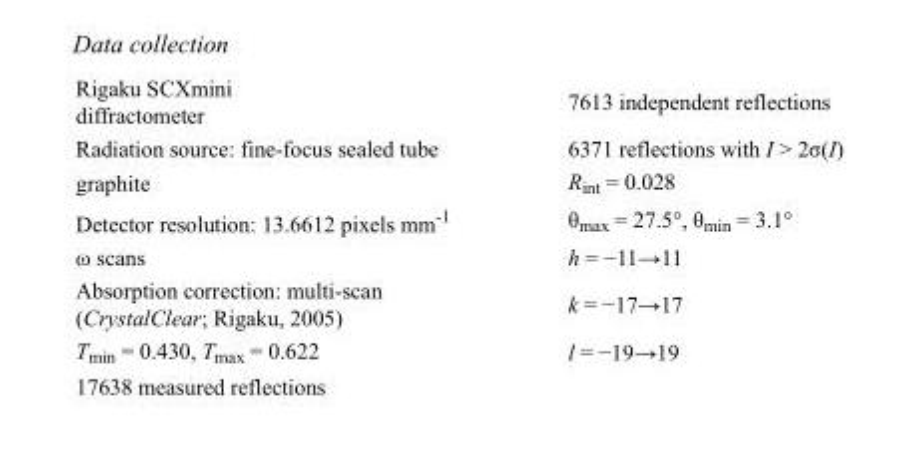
<table><tbody><tr><td>Rigaku SCXmini diffractometer</td><td>7613 independent reflections</td></tr><tr><td>Radiation source: fine-focus sealed tube</td><td>6371 reflections with I &gt; 2σ(I)</td></tr><tr><td>graphite</td><td>R<sub>int</sub> = 0.028</td></tr><tr><td>Detector resolution: 13.6612 pixels mm<sup>-1</sup></td><td>θ<sub>max</sub> = 27.5°, θ<sub>min</sub> = 3.1°</td></tr><tr><td>ω scans</td><td>h = −11→11</td></tr><tr><td>Absorption correction: multi-scan (CrystalClear; Rigaku, 2005)</td><td>k = −17→17</td></tr><tr><td>T<sub>min</sub> = 0.430, T<sub>max</sub> = 0.622</td><td>l = −19→19</td></tr><tr><td>17638 measured reflections</td><td></td></tr></tbody></table>